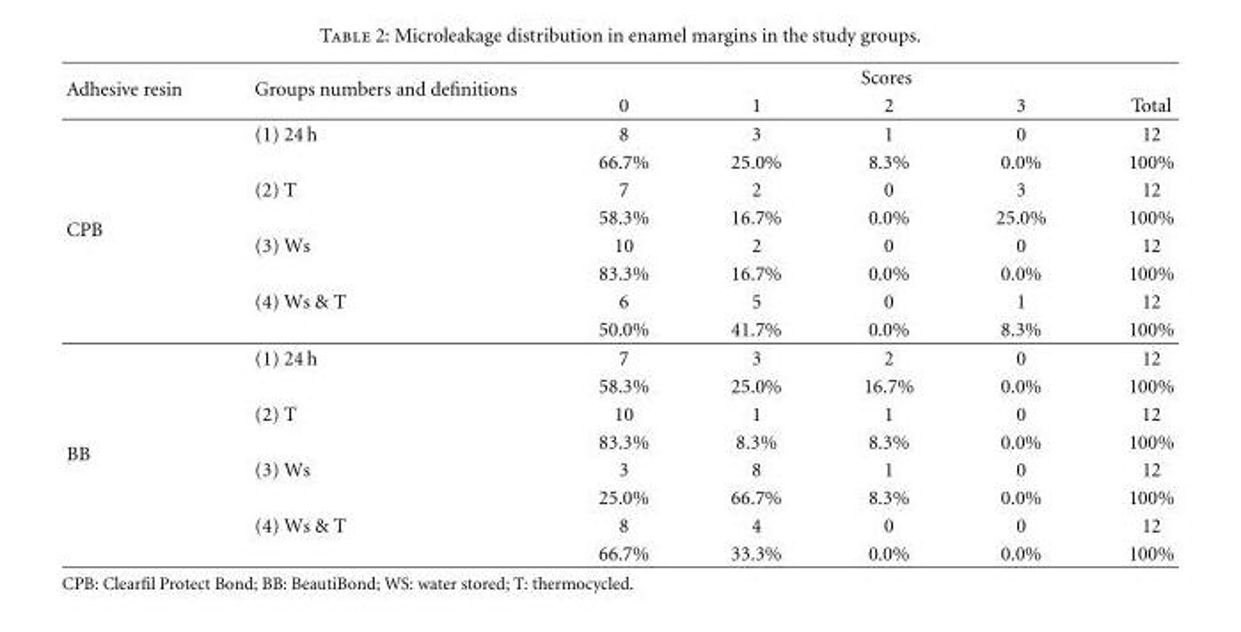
<table><thead><tr><td rowspan="2">Adhesive resin</td><td rowspan="2">Groups numbers and definitions</td><td colspan="5">Scores</td></tr><tr><td>0</td><td>1</td><td>2</td><td>3</td><td>Total</td></tr></thead><tbody><tr><td rowspan="8">CPB</td><td>(1) 24 h</td><td>8</td><td>3</td><td>1</td><td>0</td><td>12</td></tr><tr><td></td><td>66.7%</td><td>25.0%</td><td>8.3%</td><td>0.0%</td><td>100%</td></tr><tr><td>(2) T</td><td>7</td><td>2</td><td>0</td><td>3</td><td>12</td></tr><tr><td></td><td>58.3%</td><td>16.7%</td><td>0.0%</td><td>25.0%</td><td>100%</td></tr><tr><td>(3) Ws</td><td>10</td><td>2</td><td>0</td><td>0</td><td>12</td></tr><tr><td></td><td>83.3%</td><td>16.7%</td><td>0.0%</td><td>0.0%</td><td>100%</td></tr><tr><td>(4) Ws &amp; T</td><td>6</td><td>5</td><td>0</td><td>1</td><td>12</td></tr><tr><td></td><td>50.0%</td><td>41.7%</td><td>0.0%</td><td>8.3%</td><td>100%</td></tr><tr><td rowspan="8">BB</td><td>(1) 24 h</td><td>7</td><td>3</td><td>2</td><td>0</td><td>12</td></tr><tr><td></td><td>58.3%</td><td>25.0%</td><td>16.7%</td><td>0.0%</td><td>100%</td></tr><tr><td>(2) T</td><td>10</td><td>1</td><td>1</td><td>0</td><td>12</td></tr><tr><td></td><td>83.3%</td><td>8.3%</td><td>8.3%</td><td>0.0%</td><td>100%</td></tr><tr><td>(3) Ws</td><td>3</td><td>8</td><td>1</td><td>0</td><td>12</td></tr><tr><td></td><td>25.0%</td><td>66.7%</td><td>8.3%</td><td>0.0%</td><td>100%</td></tr><tr><td>(4) Ws &amp; T</td><td>8</td><td>4</td><td>0</td><td>0</td><td>12</td></tr><tr><td></td><td>66.7%</td><td>33.3%</td><td>0.0%</td><td>0.0%</td><td>100%</td></tr></tbody></table>